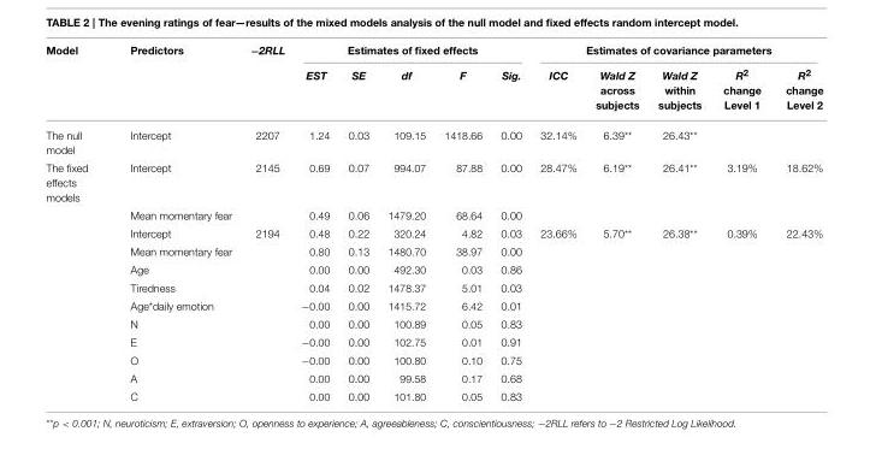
<table><thead><tr><td rowspan="2">Model</td><td rowspan="2">Predictors</td><td rowspan="2">−2RLL</td><td colspan="5">Estimates of fixed effects</td><td colspan="5">Estimates of covariance parameters</td></tr><tr><td>EST</td><td>SE</td><td>df</td><td>F</td><td>Sig.</td><td>ICC</td><td>Wald Z across subjects</td><td>Wald Z within subjects</td><td>R<sup>2</sup> change Level 1</td><td>R<sup>2</sup> change Level 2</td></tr></thead><tbody><tr><td>The null model</td><td>Intercept</td><td>2207</td><td>1.24</td><td>0.03</td><td>109.15</td><td>1418.66</td><td>0.00</td><td>32.14%</td><td>6.39**</td><td>26.43**</td><td></td><td></td></tr><tr><td rowspan="12">The fixed effects models</td><td>Intercept</td><td>2145</td><td>0.69</td><td>0.07</td><td>994.07</td><td>87.88</td><td>0.00</td><td>28.47%</td><td>6.19**</td><td>26.41**</td><td>3.19%</td><td>18.62%</td></tr><tr><td>Mean momentary fear</td><td></td><td>0.49</td><td>0.06</td><td>1479.20</td><td>68.64</td><td>0.00</td><td></td><td></td><td></td><td></td><td></td></tr><tr><td>Intercept</td><td>2194</td><td>0.48</td><td>0.22</td><td>320.24</td><td>4.82</td><td>0.03</td><td>23.66%</td><td>5.70**</td><td>26.38**</td><td>0.39%</td><td>22.43%</td></tr><tr><td>Mean momentary fear</td><td></td><td>0.80</td><td>0.13</td><td>1480.70</td><td>38.97</td><td>0.00</td><td></td><td></td><td></td><td></td><td></td></tr><tr><td>Age</td><td></td><td>0.00</td><td>0.00</td><td>492.30</td><td>0.03</td><td>0.86</td><td></td><td></td><td></td><td></td><td></td></tr><tr><td>Tiredness</td><td></td><td>0.04</td><td>0.02</td><td>1478.37</td><td>5.01</td><td>0.03</td><td></td><td></td><td></td><td></td><td></td></tr><tr><td>Age*daily emotion</td><td></td><td>−0.00</td><td>0.00</td><td>1415.72</td><td>6.42</td><td>0.01</td><td></td><td></td><td></td><td></td><td></td></tr><tr><td>N</td><td></td><td>0.00</td><td>0.00</td><td>100.89</td><td>0.05</td><td>0.83</td><td></td><td></td><td></td><td></td><td></td></tr><tr><td>E</td><td></td><td>−0.00</td><td>0.00</td><td>102.75</td><td>0.01</td><td>0.91</td><td></td><td></td><td></td><td></td><td></td></tr><tr><td>O</td><td></td><td>−0.00</td><td>0.00</td><td>100.80</td><td>0.10</td><td>0.75</td><td></td><td></td><td></td><td></td><td></td></tr><tr><td>A</td><td></td><td>0.00</td><td>0.00</td><td>99.58</td><td>0.17</td><td>0.68</td><td></td><td></td><td></td><td></td><td></td></tr><tr><td>C</td><td></td><td>0.00</td><td>0.00</td><td>101.80</td><td>0.05</td><td>0.83</td><td></td><td></td><td></td><td></td><td></td></tr></tbody></table>